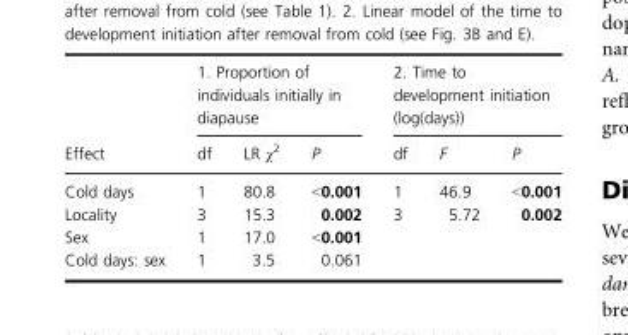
<table><thead><tr><td rowspan="2">Effect</td><td colspan="3">1. Proportion of individuals initially in diapause</td><td colspan="3">2. Time to development initiation (log(days))</td></tr><tr><td>df</td><td>LR χ<sup>2</sup></td><td>P</td><td>df</td><td>F</td><td>P</td></tr></thead><tbody><tr><td>Cold days</td><td>1</td><td>80.8</td><td>&lt;0.001</td><td>1</td><td>46.9</td><td>&lt;0.001</td></tr><tr><td>Locality</td><td>3</td><td>15.3</td><td>0.002</td><td>3</td><td>5.72</td><td>0.002</td></tr><tr><td>Sex</td><td>1</td><td>17.0</td><td>&lt;0.001</td><td></td><td></td><td></td></tr><tr><td>Cold days: sex</td><td>1</td><td>3.5</td><td>0.061</td><td></td><td></td><td></td></tr></tbody></table>